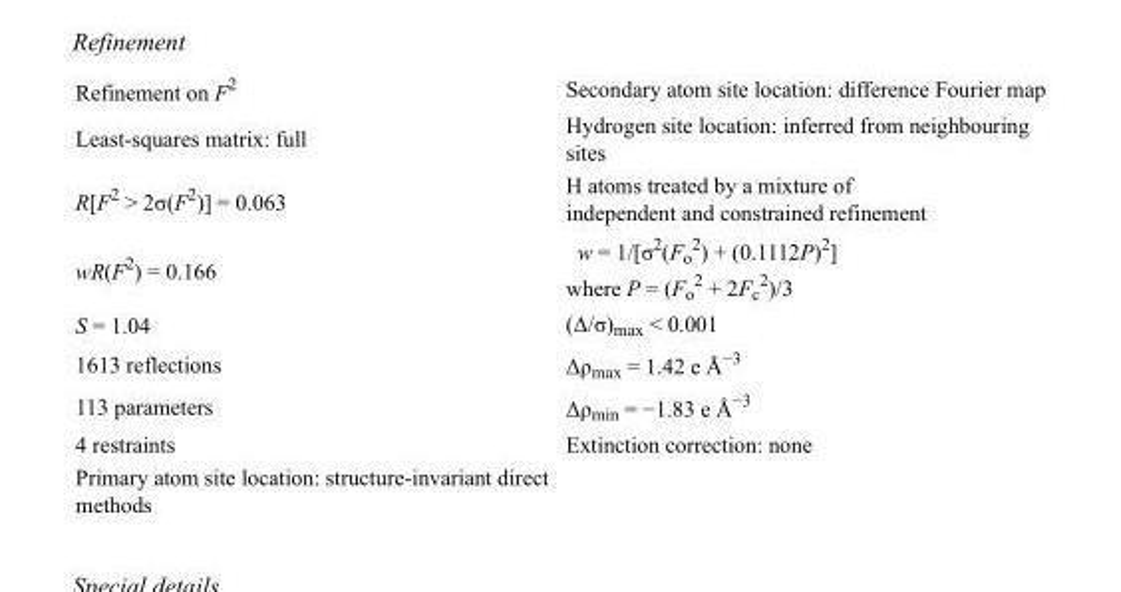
<table><tbody><tr><td>Refinement on F<sup>2</sup></td><td>Secondary atom site location: difference Fourier map</td></tr><tr><td>Least-squares matrix: full</td><td>Hydrogen site location: inferred from neighbouring sites</td></tr><tr><td>R[F<sup>2</sup> &gt; 2σ(F<sup>2</sup>)] = 0.063</td><td>H atoms treated by a mixture of independent and constrained refinement</td></tr><tr><td>wR(F<sup>2</sup>) = 0.166</td><td>w = 1/[σ<sup>2</sup>(F<sub>o</sub> <sup>2</sup>) + (0.1112P)<sup>2</sup>] where P = (F<sub>o</sub> <sup>2</sup> + 2F<sub>c</sub> <sup>2</sup>)/3</td></tr><tr><td>S = 1.04</td><td>(Δ/σ)<sub>max</sub> &lt; 0.001</td></tr><tr><td>1613 reflections</td><td>Δρ<sub>max</sub> = 1.42 e Å<sup>−3</sup></td></tr><tr><td>113 parameters</td><td>Δρ<sub>min</sub> = −1.83 e Å<sup>−3</sup></td></tr><tr><td>4 restraints</td><td>Extinction correction: none</td></tr><tr><td>Primary atom site location: structure-invariant direct methods</td><td></td></tr></tbody></table>